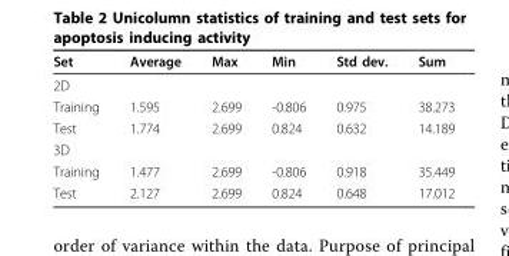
<table><thead><tr><td>Set</td><td>Average</td><td>Max</td><td>Min</td><td>Std dev.</td><td>Sum</td></tr></thead><tbody><tr><td colspan="6">2D</td></tr><tr><td>Training</td><td>1.595</td><td>2.699</td><td>-0.806</td><td>0.975</td><td>38.273</td></tr><tr><td>Test</td><td>1.774</td><td>2.699</td><td>0.824</td><td>0.632</td><td>14.189</td></tr><tr><td colspan="6">3D</td></tr><tr><td>Training</td><td>1.477</td><td>2.699</td><td>-0.806</td><td>0.918</td><td>35.449</td></tr><tr><td>Test</td><td>2.127</td><td>2.699</td><td>0.824</td><td>0.648</td><td>17.012</td></tr></tbody></table>